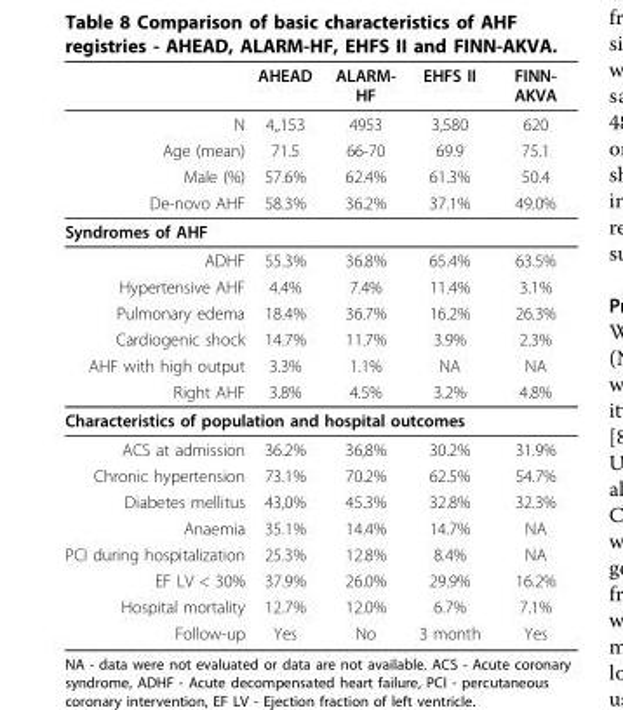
<table><thead><tr><td></td><td>AHEAD</td><td>ALARM- HF</td><td>EHFS II</td><td>FINN- AKVA</td></tr></thead><tbody><tr><td>N</td><td>4,,153</td><td>4953</td><td>3,580</td><td>620</td></tr><tr><td>Age (mean)</td><td>71.5</td><td>66-70</td><td>69.9</td><td>75.1</td></tr><tr><td>Male (%)</td><td>57.6%</td><td>62.4%</td><td>61.3%</td><td>50.4</td></tr><tr><td>De-novo AHF</td><td>58.3%</td><td>36.2%</td><td>37.1%</td><td>49.0%</td></tr><tr><td colspan="5">Syndromes of AHF</td></tr><tr><td>ADHF</td><td>55.3%</td><td>36.8%</td><td>65.4%</td><td>63.5%</td></tr><tr><td>Hypertensive AHF</td><td>4.4%</td><td>7.4%</td><td>11.4%</td><td>3.1%</td></tr><tr><td>Pulmonary edema</td><td>18.4%</td><td>36.7%</td><td>16.2%</td><td>26.3%</td></tr><tr><td>Cardiogenic shock</td><td>14.7%</td><td>11.7%</td><td>3.9%</td><td>2.3%</td></tr><tr><td>AHF with high output</td><td>3.3%</td><td>1.1%</td><td>NA</td><td>NA</td></tr><tr><td>Right AHF</td><td>3.8%</td><td>4.5%</td><td>3.2%</td><td>4.8%</td></tr><tr><td colspan="5">Characteristics of population and hospital outcomes</td></tr><tr><td>ACS at admission</td><td>36.2%</td><td>36,8%</td><td>30.2%</td><td>31.9%</td></tr><tr><td>Chronic hypertension</td><td>73.1%</td><td>70.2%</td><td>62.5%</td><td>54.7%</td></tr><tr><td>Diabetes mellitus</td><td>43,0%</td><td>45.3%</td><td>32.8%</td><td>32.3%</td></tr><tr><td>Anaemia</td><td>35.1%</td><td>14.4%</td><td>14.7%</td><td>NA</td></tr><tr><td>PCI during hospitalization</td><td>25.3%</td><td>12.8%</td><td>8.4%</td><td>NA</td></tr><tr><td>EF LV &lt; 30%</td><td>37.9%</td><td>26.0%</td><td>29.9%</td><td>16.2%</td></tr><tr><td>Hospital mortality</td><td>12.7%</td><td>12.0%</td><td>6.7%</td><td>7.1%</td></tr><tr><td>Follow-up</td><td>Yes</td><td>No</td><td>3 month</td><td>Yes</td></tr></tbody></table>